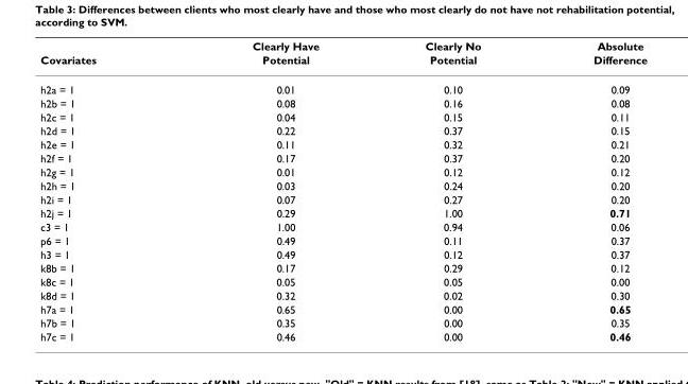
<table><thead><tr><td rowspan="2">Covariates</td><td rowspan="2">Clearly Have Potential</td><td rowspan="2">Clearly No Potential</td><td rowspan="2">Absolute Difference</td></tr><tr></tr></thead><tbody><tr><td>h2a = 1</td><td>0.01</td><td>0.10</td><td>0.09</td></tr><tr><td>h2b = 1</td><td>0.08</td><td>0.16</td><td>0.08</td></tr><tr><td>h2c = 1</td><td>0.04</td><td>0.15</td><td>0.11</td></tr><tr><td>h2d = 1</td><td>0.22</td><td>0.37</td><td>0.15</td></tr><tr><td>h2e = 1</td><td>0.11</td><td>0.32</td><td>0.21</td></tr><tr><td>h2f = 1</td><td>0.17</td><td>0.37</td><td>0.20</td></tr><tr><td>h2g = 1</td><td>0.01</td><td>0.12</td><td>0.12</td></tr><tr><td>h2h = 1</td><td>0.03</td><td>0.24</td><td>0.20</td></tr><tr><td>h2i = 1</td><td>0.07</td><td>0.27</td><td>0.20</td></tr><tr><td>h2j = 1</td><td>0.29</td><td>1.00</td><td>0.71</td></tr><tr><td>c3 = 1</td><td>1.00</td><td>0.94</td><td>0.06</td></tr><tr><td>p6 = 1</td><td>0.49</td><td>0.11</td><td>0.37</td></tr><tr><td>h3 = 1</td><td>0.49</td><td>0.12</td><td>0.37</td></tr><tr><td>k8b = 1</td><td>0.17</td><td>0.29</td><td>0.12</td></tr><tr><td>k8c = 1</td><td>0.05</td><td>0.05</td><td>0.00</td></tr><tr><td>k8d = 1</td><td>0.32</td><td>0.02</td><td>0.30</td></tr><tr><td>h7a = 1</td><td>0.65</td><td>0.00</td><td>0.65</td></tr><tr><td>h7b = 1</td><td>0.35</td><td>0.00</td><td>0.35</td></tr><tr><td>h7c = 1</td><td>0.46</td><td>0.00</td><td>0.46</td></tr></tbody></table>